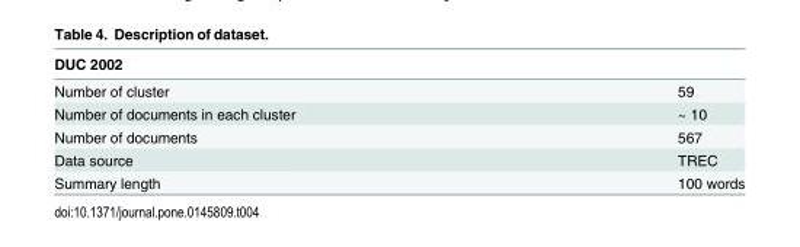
<table><thead><tr><td colspan="2">DUC 2002</td></tr><tr><td>Number of cluster</td><td>59</td></tr></thead><tbody><tr><td>Number of documents in each cluster</td><td>~ 10</td></tr><tr><td>Number of documents</td><td>567</td></tr><tr><td>Data source</td><td>TREC</td></tr><tr><td>Summary length</td><td>100 words</td></tr></tbody></table>